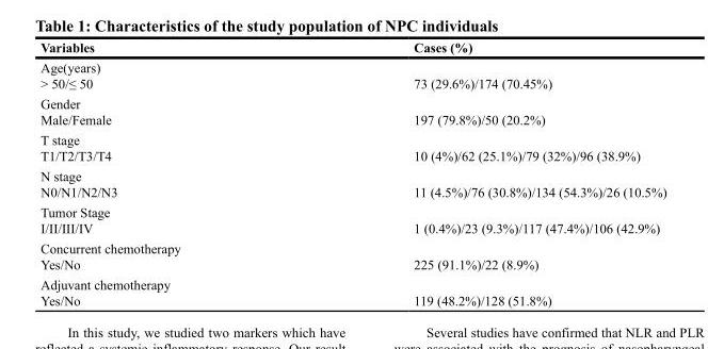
<table><thead><tr><td>Variables</td><td>Cases (%)</td></tr></thead><tbody><tr><td colspan="2">Age(years)</td></tr><tr><td>&gt; 50/≤ 50</td><td>73 (29.6%)/174 (70.45%)</td></tr><tr><td colspan="2">Gender</td></tr><tr><td>Male/Female</td><td>197 (79.8%)/50 (20.2%)</td></tr><tr><td colspan="2">T stage</td></tr><tr><td>T1/T2/T3/T4</td><td>10 (4%)/62 (25.1%)/79 (32%)/96 (38.9%)</td></tr><tr><td colspan="2">N stage</td></tr><tr><td>N0/N1/N2/N3</td><td>11 (4.5%)/76 (30.8%)/134 (54.3%)/26 (10.5%)</td></tr><tr><td colspan="2">Tumor Stage</td></tr><tr><td>I/II/III/IV</td><td>1 (0.4%)/23 (9.3%)/117 (47.4%)/106 (42.9%)</td></tr><tr><td colspan="2">Concurrent chemotherapy</td></tr><tr><td>Yes/No</td><td>225 (91.1%)/22 (8.9%)</td></tr><tr><td colspan="2">Adjuvant chemotherapy</td></tr><tr><td>Yes/No</td><td>119 (48.2%)/128 (51.8%)</td></tr></tbody></table>